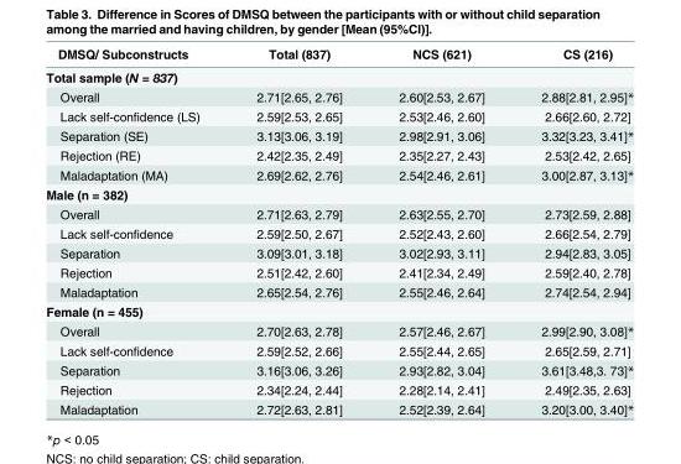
<table><thead><tr><td>DMSQ/ Subconstructs</td><td>Total (837)</td><td>NCS (621)</td><td>CS (216)</td></tr></thead><tbody><tr><td colspan="4">Total sample (N = 837)</td></tr><tr><td>Overall</td><td>2.71[2.65, 2.76]</td><td>2.60[2.53, 2.67]</td><td>2.88[2.81, 2.95]*</td></tr><tr><td>Lack self-confidence (LS)</td><td>2.59[2.53, 2.65]</td><td>2.53[2.46, 2.60]</td><td>2.66[2.60, 2.72]</td></tr><tr><td>Separation (SE)</td><td>3.13[3.06, 3.19]</td><td>2.98[2.91, 3.06]</td><td>3.32[3.23, 3.41]*</td></tr><tr><td>Rejection (RE)</td><td>2.42[2.35, 2.49]</td><td>2.35[2.27, 2.43]</td><td>2.53[2.42, 2.65]</td></tr><tr><td>Maladaptation (MA)</td><td>2.69[2.62, 2.76]</td><td>2.54[2.46, 2.61]</td><td>3.00[2.87, 3.13]*</td></tr><tr><td colspan="4">Male (n = 382)</td></tr><tr><td>Overall</td><td>2.71[2.63, 2.79]</td><td>2.63[2.55, 2.70]</td><td>2.73[2.59, 2.88]</td></tr><tr><td>Lack self-confidence</td><td>2.59[2.50, 2.67]</td><td>2.52[2.43, 2.60]</td><td>2.66[2.54, 2.79]</td></tr><tr><td>Separation</td><td>3.09[3.01, 3.18]</td><td>3.02[2.93, 3.11]</td><td>2.94[2.83, 3.05]</td></tr><tr><td>Rejection</td><td>2.51[2.42, 2.60]</td><td>2.41[2.34, 2.49]</td><td>2.59[2.40, 2.78]</td></tr><tr><td>Maladaptation</td><td>2.65[2.54, 2.76]</td><td>2.55[2.46, 2.64]</td><td>2.74[2.54, 2.94]</td></tr><tr><td colspan="4">Female (n = 455)</td></tr><tr><td>Overall</td><td>2.70[2.63, 2.78]</td><td>2.57[2.46, 2.67]</td><td>2.99[2.90, 3.08]*</td></tr><tr><td>Lack self-confidence</td><td>2.59[2.52, 2.66]</td><td>2.55[2.44, 2.65]</td><td>2.65[2.59, 2.71]</td></tr><tr><td>Separation</td><td>3.16[3.06, 3.26]</td><td>2.93[2.82, 3.04]</td><td>3.61[3.48,3. 73]*</td></tr><tr><td>Rejection</td><td>2.34[2.24, 2.44]</td><td>2.28[2.14, 2.41]</td><td>2.49[2.35, 2.63]</td></tr><tr><td>Maladaptation</td><td>2.72[2.63, 2.81]</td><td>2.52[2.39, 2.64]</td><td>3.20[3.00, 3.40]*</td></tr></tbody></table>